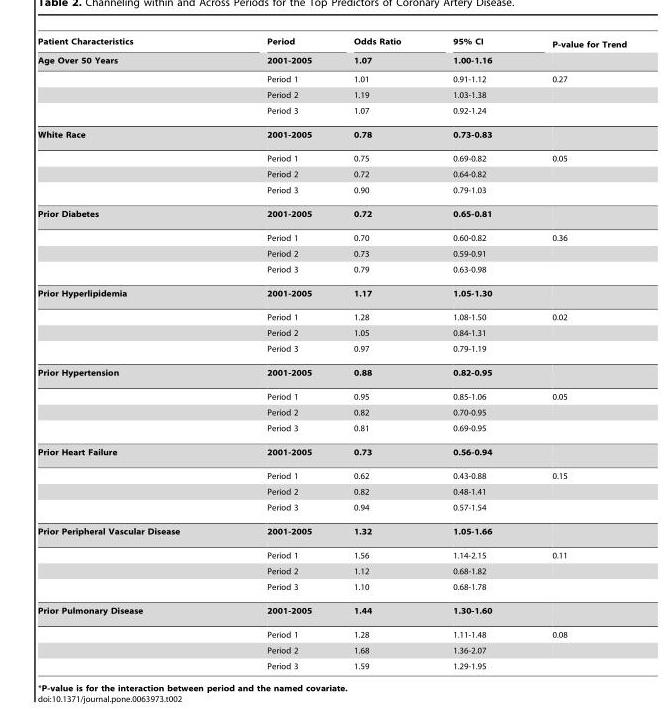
<table><thead><tr><td rowspan="2">Patient Characteristics Age Over 50 Years</td><td rowspan="2">Period 2001-2005</td><td rowspan="2">Odds Ratio 1.07</td><td rowspan="2">95% CI 1.00-1.16</td><td rowspan="2">P-value for Trend</td></tr><tr></tr></thead><tbody><tr><td></td><td>Period 1</td><td>1.01</td><td>0.91-1.12</td><td>0.27</td></tr><tr><td></td><td>Period 2</td><td>1.19</td><td>1.03-1.38</td><td></td></tr><tr><td></td><td>Period 3</td><td>1.07</td><td>0.92-1.24</td><td></td></tr><tr><td rowspan="4">White Race</td><td>2001-2005</td><td>0.78</td><td>0.73-0.83</td><td></td></tr><tr><td>Period 1</td><td>0.75</td><td>0.69-0.82</td><td>0.05</td></tr><tr><td>Period 2</td><td>0.72</td><td>0.64-0.82</td><td></td></tr><tr><td>Period 3</td><td>0.90</td><td>0.79-1.03</td><td></td></tr><tr><td rowspan="4">Prior Diabetes</td><td>2001-2005</td><td>0.72</td><td>0.65-0.81</td><td></td></tr><tr><td>Period 1</td><td>0.70</td><td>0.60-0.82</td><td>0.36</td></tr><tr><td>Period 2</td><td>0.73</td><td>0.59-0.91</td><td></td></tr><tr><td>Period 3</td><td>0.79</td><td>0.63-0.98</td><td></td></tr><tr><td rowspan="4">Prior Hyperlipidemia</td><td>2001-2005</td><td>1.17</td><td>1.05-1.30</td><td></td></tr><tr><td>Period 1</td><td>1.28</td><td>1.08-1.50</td><td>0.02</td></tr><tr><td>Period 2</td><td>1.05</td><td>0.84-1.31</td><td></td></tr><tr><td>Period 3</td><td>0.97</td><td>0.79-1.19</td><td></td></tr><tr><td rowspan="4">Prior Hypertension</td><td>2001-2005</td><td>0.88</td><td>0.82-0.95</td><td></td></tr><tr><td>Period 1</td><td>0.95</td><td>0.85-1.06</td><td>0.05</td></tr><tr><td>Period 2</td><td>0.82</td><td>0.70-0.95</td><td></td></tr><tr><td>Period 3</td><td>0.81</td><td>0.69-0.95</td><td></td></tr><tr><td rowspan="4">Prior Heart Failure</td><td>2001-2005</td><td>0.73</td><td>0.56-0.94</td><td></td></tr><tr><td>Period 1</td><td>0.62</td><td>0.43-0.88</td><td>0.15</td></tr><tr><td>Period 2</td><td>0.82</td><td>0.48-1.41</td><td></td></tr><tr><td>Period 3</td><td>0.94</td><td>0.57-1.54</td><td></td></tr><tr><td rowspan="4">Prior Peripheral Vascular Disease</td><td>2001-2005</td><td>1.32</td><td>1.05-1.66</td><td></td></tr><tr><td>Period 1</td><td>1.56</td><td>1.14-2.15</td><td>0.11</td></tr><tr><td>Period 2</td><td>1.12</td><td>0.68-1.82</td><td></td></tr><tr><td>Period 3</td><td>1.10</td><td>0.68-1.78</td><td></td></tr><tr><td rowspan="4">Prior Pulmonary Disease</td><td>2001-2005</td><td>1.44</td><td>1.30-1.60</td><td></td></tr><tr><td>Period 1</td><td>1.28</td><td>1.11-1.48</td><td>0.08</td></tr><tr><td>Period 2</td><td>1.68</td><td>1.36-2.07</td><td></td></tr><tr><td>Period 3</td><td>1.59</td><td>1.29-1.95</td><td></td></tr></tbody></table>